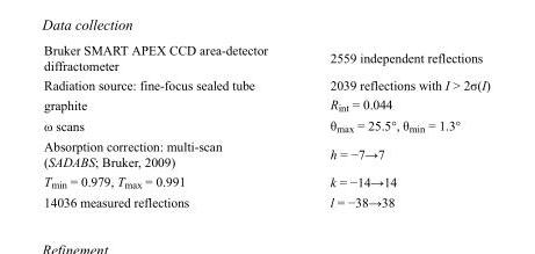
<table><tbody><tr><td>Bruker SMART APEX CCD area-detector diffractometer</td><td>2559 independent reflections</td></tr><tr><td>Radiation source: fine-focus sealed tube</td><td>2039 reflections with I &gt; 2σ(I)</td></tr><tr><td>graphite</td><td>R<sub>int</sub> = 0.044</td></tr><tr><td>ω scans</td><td>θ<sub>max</sub> = 25.5°, θ<sub>min</sub> = 1.3°</td></tr><tr><td>Absorption correction: multi-scan (SADABS; Bruker, 2009)</td><td>h = −7→7</td></tr><tr><td>T<sub>min</sub> = 0.979, T<sub>max</sub> = 0.991</td><td>k = −14→14</td></tr><tr><td>14036 measured reflections</td><td>l = −38→38</td></tr></tbody></table>